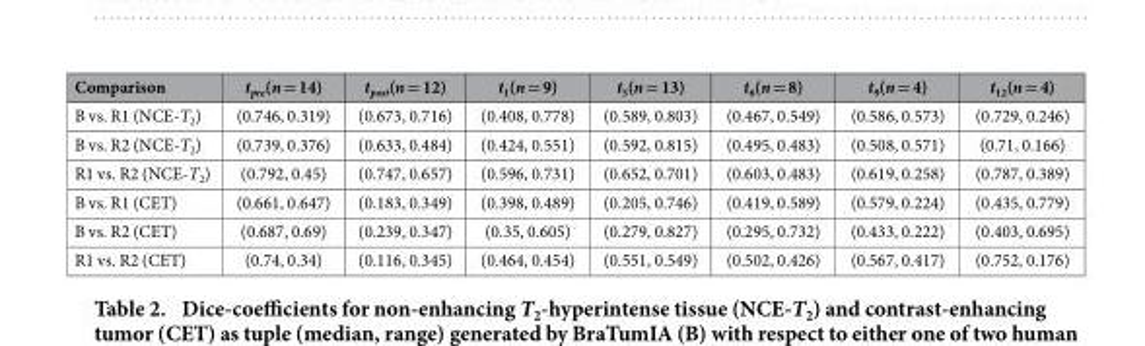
<table><thead><tr><td>Comparison</td><td>t<sub>pre</sub>(n = 14)</td><td>t<sub>post</sub>(n = 12)</td><td>t<sub>1</sub>(n = 9)</td><td>t<sub>3</sub>(n = 13)</td><td>t<sub>6</sub>(n = 8)</td><td>t<sub>9</sub>(n = 4)</td><td>t<sub>12</sub>(n = 4)</td></tr></thead><tbody><tr><td>B vs. R1 (NCE-T<sub>2</sub>)</td><td>(0.746, 0.319)</td><td>(0.673, 0.716)</td><td>(0.408, 0.778)</td><td>(0.589, 0.803)</td><td>(0.467, 0.549)</td><td>(0.586, 0.573)</td><td>(0.729, 0.246)</td></tr><tr><td>B vs. R2 (NCE-T<sub>2</sub>)</td><td>(0.739, 0.376)</td><td>(0.633, 0.484)</td><td>(0.424, 0.551)</td><td>(0.592, 0.815)</td><td>(0.495, 0.483)</td><td>(0.508, 0.571)</td><td>(0.71, 0.166)</td></tr><tr><td>R1 vs. R2 (NCE-T<sub>2</sub>)</td><td>(0.792, 0.45)</td><td>(0.747, 0.657)</td><td>(0.596, 0.731)</td><td>(0.652, 0.701)</td><td>(0.603, 0.483)</td><td>(0.619, 0.258)</td><td>(0.787, 0.389)</td></tr><tr><td>B vs. R1 (CET)</td><td>(0.661, 0.647)</td><td>(0.183, 0.349)</td><td>(0.398, 0.489)</td><td>(0.205, 0.746)</td><td>(0.419, 0.589)</td><td>(0.579, 0.224)</td><td>(0.435, 0.779)</td></tr><tr><td>B vs. R2 (CET)</td><td>(0.687, 0.69)</td><td>(0.239, 0.347)</td><td>(0.35, 0.605)</td><td>(0.279, 0.827)</td><td>(0.295, 0.732)</td><td>(0.433, 0.222)</td><td>(0.403, 0.695)</td></tr><tr><td>R1 vs. R2 (CET)</td><td>(0.74, 0.34)</td><td>(0.116, 0.345)</td><td>(0.464, 0.454)</td><td>(0.551, 0.549)</td><td>(0.502, 0.426)</td><td>(0.567, 0.417)</td><td>(0.752, 0.176)</td></tr></tbody></table>